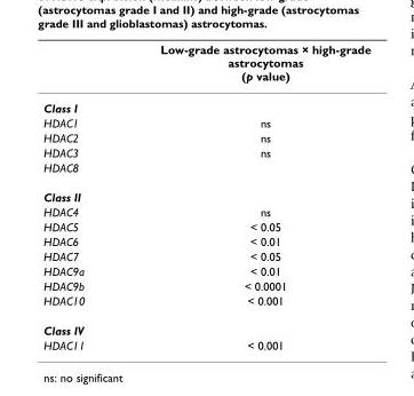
<table><thead><tr><td></td><td>Low-grade astrocytomas × high-grade astrocytomas (p value)</td></tr></thead><tbody><tr><td colspan="2">Class I</td></tr><tr><td>HDAC1</td><td>ns</td></tr><tr><td>HDAC2</td><td>ns</td></tr><tr><td>HDAC3</td><td>ns</td></tr><tr><td colspan="2">HDAC8</td></tr><tr><td colspan="2">Class II</td></tr><tr><td>HDAC4</td><td>ns</td></tr><tr><td>HDAC5</td><td>&lt; 0.05</td></tr><tr><td>HDAC6</td><td>&lt; 0.01</td></tr><tr><td>HDAC7</td><td>&lt; 0.05</td></tr><tr><td>HDAC9a</td><td>&lt; 0.01</td></tr><tr><td>HDAC9b</td><td>&lt; 0.0001</td></tr><tr><td>HDAC10</td><td>&lt; 0.001</td></tr><tr><td colspan="2">Class IV</td></tr><tr><td>HDAC11</td><td>&lt; 0.001</td></tr></tbody></table>